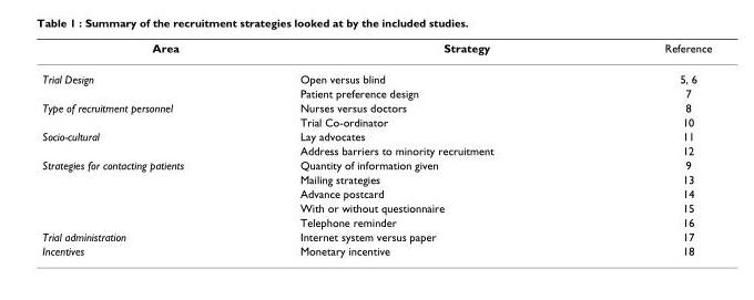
<table><thead><tr><td>Area</td><td>Strategy</td><td>Reference</td></tr></thead><tbody><tr><td rowspan="2">Trial Design</td><td>Open versus blind</td><td>5, 6</td></tr><tr><td>Patient preference design</td><td>7</td></tr><tr><td rowspan="2">Type of recruitment personnel</td><td>Nurses versus doctors</td><td>8</td></tr><tr><td>Trial Co-ordinator</td><td>10</td></tr><tr><td rowspan="2">Socio-cultural</td><td>Lay advocates</td><td>11</td></tr><tr><td>Address barriers to minority recruitment</td><td>12</td></tr><tr><td rowspan="5">Strategies for contacting patients</td><td>Quantity of information given</td><td>9</td></tr><tr><td>Mailing strategies</td><td>13</td></tr><tr><td>Advance postcard</td><td>14</td></tr><tr><td>With or without questionnaire</td><td>15</td></tr><tr><td>Telephone reminder</td><td>16</td></tr><tr><td>Trial administration</td><td>Internet system versus paper</td><td>17</td></tr><tr><td>Incentives</td><td>Monetary incentive</td><td>18</td></tr></tbody></table>